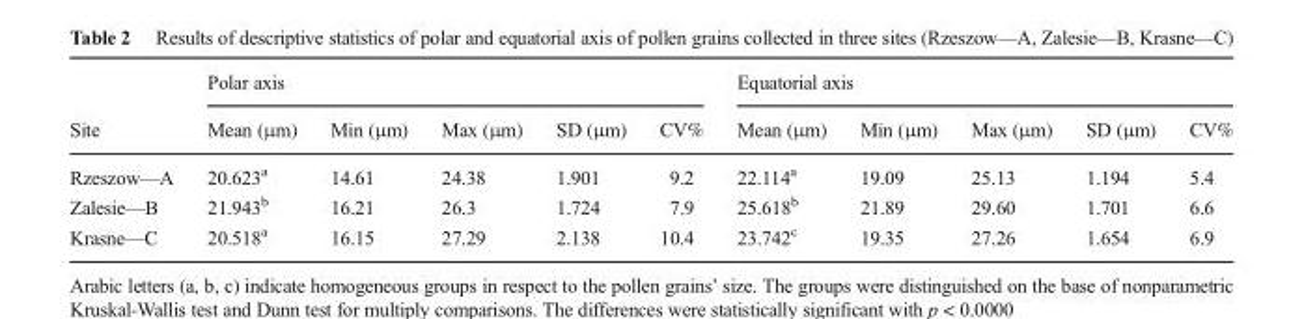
<table><thead><tr><td rowspan="2">Site</td><td colspan="5">Polar axis</td><td colspan="5">Equatorial axis</td></tr><tr><td>Mean (μm)</td><td>Min (μm)</td><td>Max (μm)</td><td>SD (μm)</td><td>CV%</td><td>Mean (μm)</td><td>Min (μm)</td><td>Max (μm)</td><td>SD (μm)</td><td>CV%</td></tr></thead><tbody><tr><td>Rzeszow—A</td><td>20.623<sup>a</sup></td><td>14.61</td><td>24.38</td><td>1.901</td><td>9.2</td><td>22.114<sup>a</sup></td><td>19.09</td><td>25.13</td><td>1.194</td><td>5.4</td></tr><tr><td>Zalesie—B</td><td>21.943<sup>b</sup></td><td>16.21</td><td>26.3</td><td>1.724</td><td>7.9</td><td>25.618<sup>b</sup></td><td>21.89</td><td>29.60</td><td>1.701</td><td>6.6</td></tr><tr><td>Krasne—C</td><td>20.518<sup>a</sup></td><td>16.15</td><td>27.29</td><td>2.138</td><td>10.4</td><td>23.742<sup>c</sup></td><td>19.35</td><td>27.26</td><td>1.654</td><td>6.9</td></tr></tbody></table>